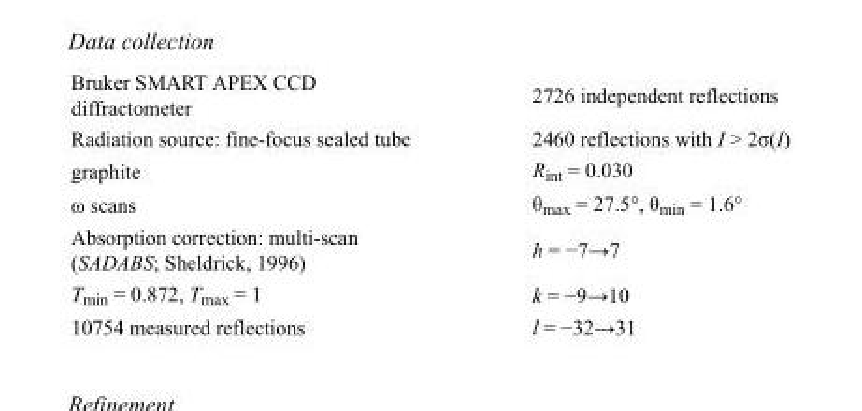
<table><tbody><tr><td>Bruker SMART APEX CCD diffractometer</td><td>2726 independent reflections</td></tr><tr><td>Radiation source: fine-focus sealed tube</td><td>2460 reflections with I &gt; 2σ(I)</td></tr><tr><td>graphite</td><td>R<sub>int</sub> = 0.030</td></tr><tr><td>ω scans</td><td>θ<sub>max</sub> = 27.5°, θ<sub>min</sub> = 1.6°</td></tr><tr><td>Absorption correction: multi-scan (SADABS; Sheldrick, 1996)</td><td>h = −7→7</td></tr><tr><td>T<sub>min</sub> = 0.872, T<sub>max</sub> = 1</td><td>k = −9→10</td></tr><tr><td>10754 measured reflections</td><td>l = −32→31</td></tr></tbody></table>